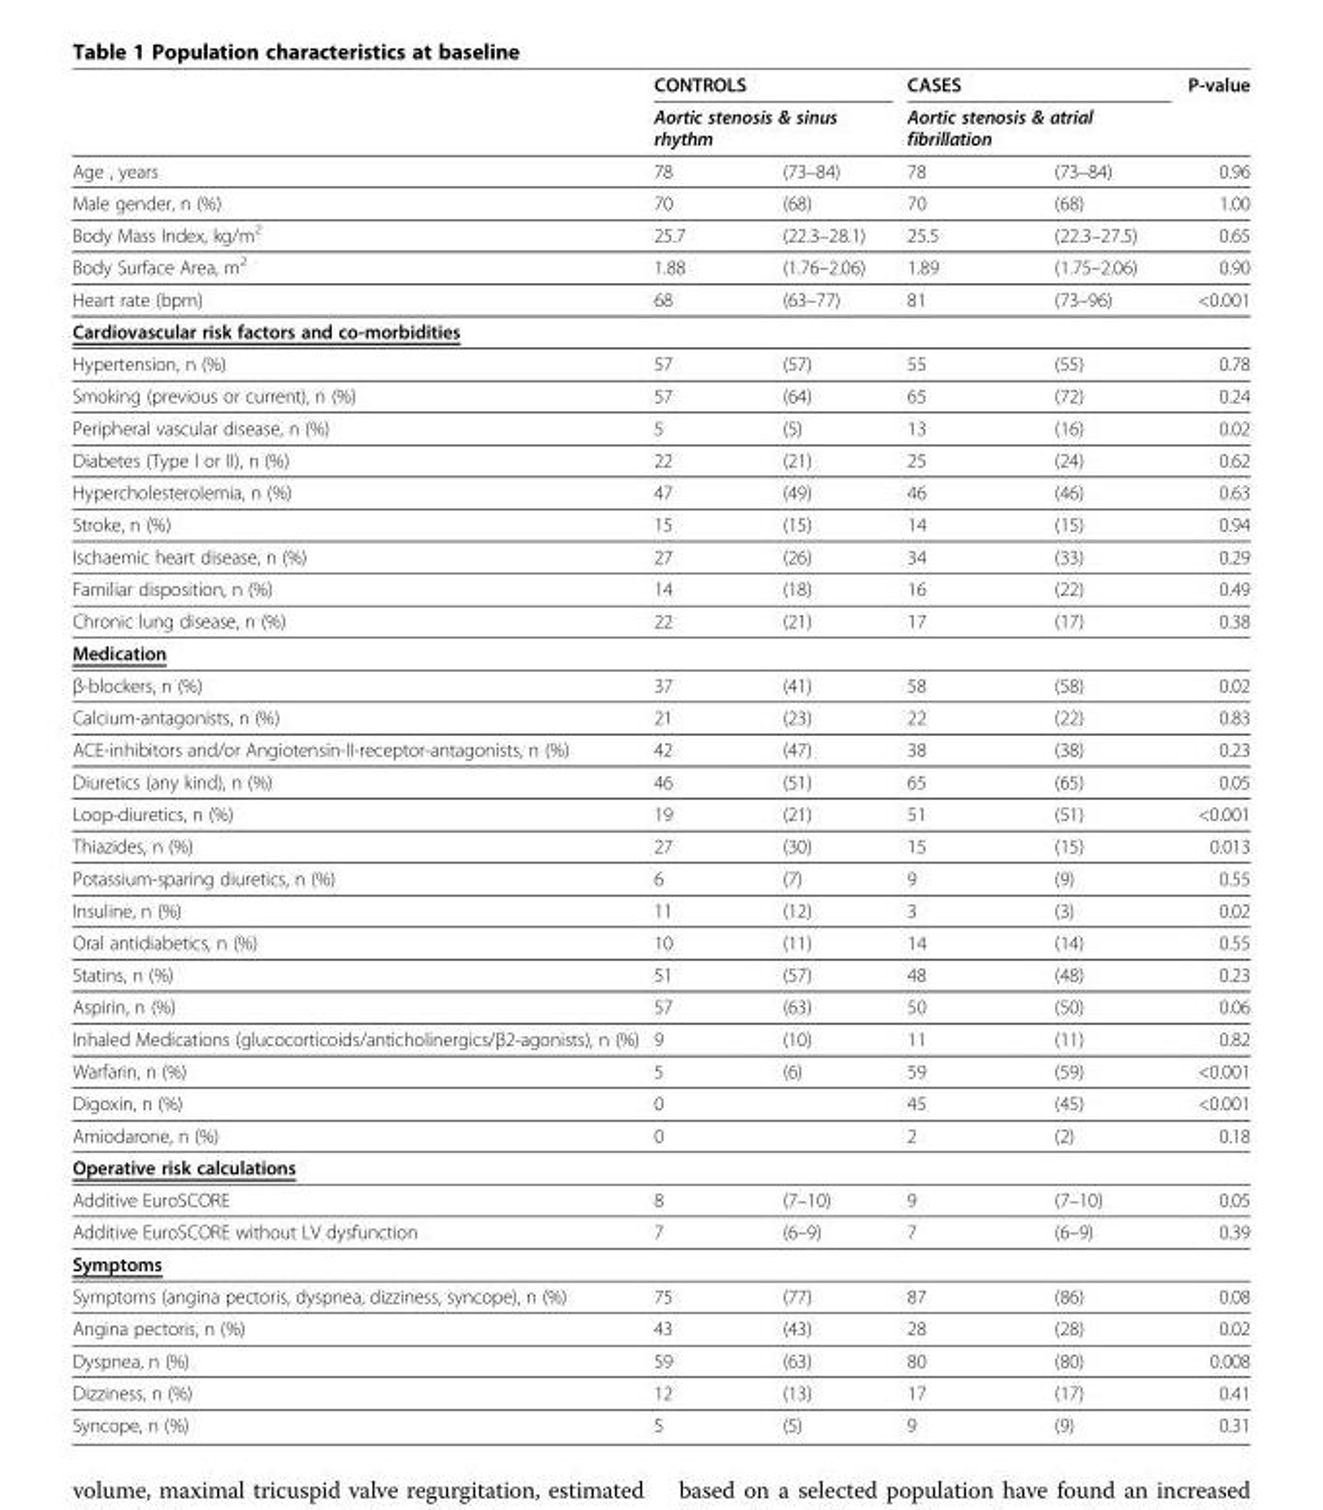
<table><thead><tr><td rowspan="3">Age , years</td><td rowspan="2" colspan="2">CONTROLS Aortic stenosis &amp; sinus rhythm</td><td rowspan="2" colspan="2">CASES Aortic stenosis &amp; atrial fibrillation</td><td rowspan="3">P-value 0.96</td></tr><tr></tr><tr><td>78</td><td>(73–84)</td><td>78</td><td>(73–84)</td></tr></thead><tbody><tr><td>Male gender, n (%)</td><td>70</td><td>(68)</td><td>70</td><td>(68)</td><td>1.00</td></tr><tr><td>Body Mass Index, kg/m<sup>2</sup></td><td>25.7</td><td>(22.3–28.1)</td><td>25.5</td><td>(22.3–27.5)</td><td>0.65</td></tr><tr><td>Body Surface Area, m<sup>2</sup></td><td>1.88</td><td>(1.76–2.06)</td><td>1.89</td><td>(1.75–2.06)</td><td>0.90</td></tr><tr><td>Heart rate (bpm)</td><td>68</td><td>(63–77)</td><td>81</td><td>(73–96)</td><td>&lt;0.001</td></tr><tr><td colspan="6">Cardiovascular risk factors and co-morbidities</td></tr><tr><td>Hypertension, n (%)</td><td>57</td><td>(57)</td><td>55</td><td>(55)</td><td>0.78</td></tr><tr><td>Smoking (previous or current), n (%)</td><td>57</td><td>(64)</td><td>65</td><td>(72)</td><td>0.24</td></tr><tr><td>Peripheral vascular disease, n (%)</td><td>5</td><td>(5)</td><td>13</td><td>(16)</td><td>0.02</td></tr><tr><td>Diabetes (Type I or II), n (%)</td><td>22</td><td>(21)</td><td>25</td><td>(24)</td><td>0.62</td></tr><tr><td>Hypercholesterolemia, n (%)</td><td>47</td><td>(49)</td><td>46</td><td>(46)</td><td>0.63</td></tr><tr><td>Stroke, n (%)</td><td>15</td><td>(15)</td><td>14</td><td>(15)</td><td>0.94</td></tr><tr><td>Ischaemic heart disease, n (%)</td><td>27</td><td>(26)</td><td>34</td><td>(33)</td><td>0.29</td></tr><tr><td>Familiar disposition, n (%)</td><td>14</td><td>(18)</td><td>16</td><td>(22)</td><td>0.49</td></tr><tr><td>Chronic lung disease, n (%)</td><td>22</td><td>(21)</td><td>17</td><td>(17)</td><td>0.38</td></tr><tr><td colspan="6">Medication</td></tr><tr><td>β-blockers, n (%)</td><td>37</td><td>(41)</td><td>58</td><td>(58)</td><td>0.02</td></tr><tr><td>Calcium-antagonists, n (%)</td><td>21</td><td>(23)</td><td>22</td><td>(22)</td><td>0.83</td></tr><tr><td>ACE-inhibitors and/or Angiotensin-II-receptor-antagonists, n (%)</td><td>42</td><td>(47)</td><td>38</td><td>(38)</td><td>0.23</td></tr><tr><td>Diuretics (any kind), n (%)</td><td>46</td><td>(51)</td><td>65</td><td>(65)</td><td>0.05</td></tr><tr><td>Loop-diuretics, n (%)</td><td>19</td><td>(21)</td><td>51</td><td>(51)</td><td>&lt;0.001</td></tr><tr><td>Thiazides, n (%)</td><td>27</td><td>(30)</td><td>15</td><td>(15)</td><td>0.013</td></tr><tr><td>Potassium-sparing diuretics, n (%)</td><td>6</td><td>(7)</td><td>9</td><td>(9)</td><td>0.55</td></tr><tr><td>Insuline, n (%)</td><td>11</td><td>(12)</td><td>3</td><td>(3)</td><td>0.02</td></tr><tr><td>Oral antidiabetics, n (%)</td><td>10</td><td>(11)</td><td>14</td><td>(14)</td><td>0.55</td></tr><tr><td>Statins, n (%)</td><td>51</td><td>(57)</td><td>48</td><td>(48)</td><td>0.23</td></tr><tr><td>Aspirin, n (%)</td><td>57</td><td>(63)</td><td>50</td><td>(50)</td><td>0.06</td></tr><tr><td>Inhaled Medications (glucocorticoids/anticholinergics/β2-agonists), n (%)</td><td>9</td><td>(10)</td><td>11</td><td>(11)</td><td>0.82</td></tr><tr><td>Warfarin, n (%)</td><td>5</td><td>(6)</td><td>59</td><td>(59)</td><td>&lt;0.001</td></tr><tr><td>Digoxin, n (%)</td><td>0</td><td></td><td>45</td><td>(45)</td><td>&lt;0.001</td></tr><tr><td>Amiodarone, n (%)</td><td>0</td><td></td><td>2</td><td>(2)</td><td>0.18</td></tr><tr><td colspan="6">Operative risk calculations</td></tr><tr><td>Additive EuroSCORE</td><td>8</td><td>(7–10)</td><td>9</td><td>(7–10)</td><td>0.05</td></tr><tr><td>Additive EuroSCORE without LV dysfunction</td><td>7</td><td>(6–9)</td><td>7</td><td>(6–9)</td><td>0.39</td></tr><tr><td colspan="6">Symptoms</td></tr><tr><td>Symptoms (angina pectoris, dyspnea, dizziness, syncope), n (%)</td><td>75</td><td>(77)</td><td>87</td><td>(86)</td><td>0.08</td></tr><tr><td>Angina pectoris, n (%)</td><td>43</td><td>(43)</td><td>28</td><td>(28)</td><td>0.02</td></tr><tr><td>Dyspnea, n (%)</td><td>59</td><td>(63)</td><td>80</td><td>(80)</td><td>0.008</td></tr><tr><td>Dizziness, n (%)</td><td>12</td><td>(13)</td><td>17</td><td>(17)</td><td>0.41</td></tr><tr><td>Syncope, n (%)</td><td>5</td><td>(5)</td><td>9</td><td>(9)</td><td>0.31</td></tr></tbody></table>